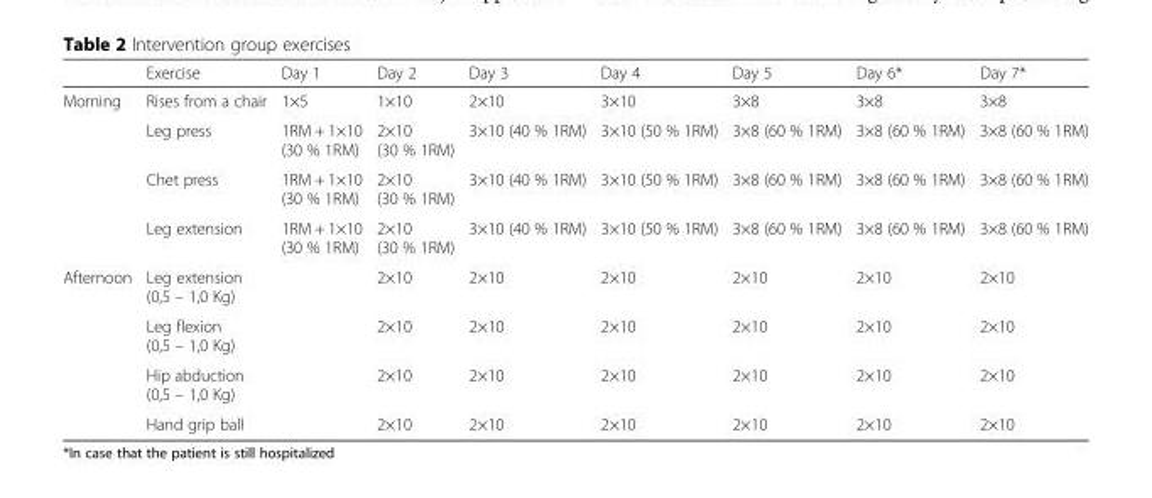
<table><thead><tr><td></td><td>Exercise</td><td>Day 1</td><td>Day 2</td><td>Day 3</td><td>Day 4</td><td>Day 5</td><td>Day 6*</td><td>Day 7*</td></tr></thead><tbody><tr><td rowspan="4">Morning</td><td>Rises from a chair</td><td>1×5</td><td>1×10</td><td>2×10</td><td>3×10</td><td>3×8</td><td>3×8</td><td>3×8</td></tr><tr><td>Leg press</td><td>1RM + 1×10 (30 % 1RM)</td><td>2×10 (30 % 1RM)</td><td>3×10 (40 % 1RM)</td><td>3×10 (50 % 1RM)</td><td>3×8 (60 % 1RM)</td><td>3×8 (60 % 1RM)</td><td>3×8 (60 % 1RM)</td></tr><tr><td>Chet press</td><td>1RM + 1×10 (30 % 1RM)</td><td>2×10 (30 % 1RM)</td><td>3×10 (40 % 1RM)</td><td>3×10 (50 % 1RM)</td><td>3×8 (60 % 1RM)</td><td>3×8 (60 % 1RM)</td><td>3×8 (60 % 1RM)</td></tr><tr><td>Leg extension</td><td>1RM + 1×10 (30 % 1RM)</td><td>2×10 (30 % 1RM)</td><td>3×10 (40 % 1RM)</td><td>3×10 (50 % 1RM)</td><td>3×8 (60 % 1RM)</td><td>3×8 (60 % 1RM)</td><td>3×8 (60 % 1RM)</td></tr><tr><td rowspan="4">Afternoon</td><td>Leg extension (0,5 – 1,0 Kg)</td><td></td><td>2×10</td><td>2×10</td><td>2×10</td><td>2×10</td><td>2×10</td><td>2×10</td></tr><tr><td>Leg flexion (0,5 – 1,0 Kg)</td><td></td><td>2×10</td><td>2×10</td><td>2×10</td><td>2×10</td><td>2×10</td><td>2×10</td></tr><tr><td>Hip abduction (0,5 – 1,0 Kg)</td><td></td><td>2×10</td><td>2×10</td><td>2×10</td><td>2×10</td><td>2×10</td><td>2×10</td></tr><tr><td>Hand grip ball</td><td></td><td>2×10</td><td>2×10</td><td>2×10</td><td>2×10</td><td>2×10</td><td>2×10</td></tr></tbody></table>